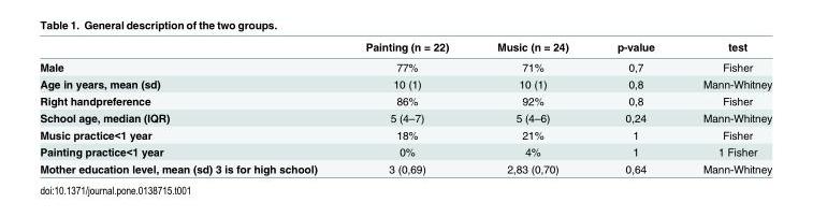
<table><thead><tr><td></td><td>Painting (n = 22)</td><td>Music (n = 24)</td><td>p-value</td><td>test</td></tr></thead><tbody><tr><td>Male</td><td>77%</td><td>71%</td><td>0,7</td><td>Fisher</td></tr><tr><td>Age in years, mean (sd)</td><td>10 (1)</td><td>10 (1)</td><td>0,8</td><td>Mann-Whitney</td></tr><tr><td>Right handpreference</td><td>86%</td><td>92%</td><td>0,8</td><td>Fisher</td></tr><tr><td>School age, median (IQR)</td><td>5 (4–7)</td><td>5 (4–6)</td><td>0,24</td><td>Mann-Whitney</td></tr><tr><td>Music practice&lt;1 year</td><td>18%</td><td>21%</td><td>1</td><td>Fisher</td></tr><tr><td>Painting practice&lt;1 year</td><td>0%</td><td>4%</td><td>1</td><td>1 Fisher</td></tr><tr><td>Mother education level, mean (sd) 3 is for high school)</td><td>3 (0,69)</td><td>2,83 (0,70)</td><td>0,64</td><td>Mann-Whitney</td></tr></tbody></table>